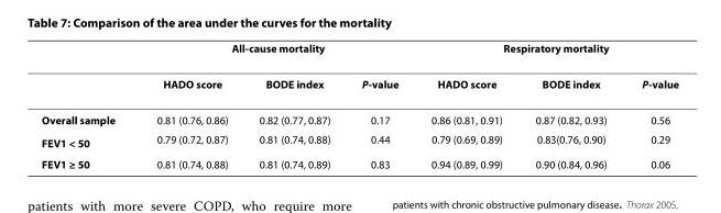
<table><thead><tr><td rowspan="2"></td><td colspan="3">All-cause mortality</td><td colspan="3">Respiratory mortality</td></tr><tr><td>HADO score</td><td>BODE index</td><td>P-value</td><td>HADO score</td><td>BODE index</td><td>P-value</td></tr></thead><tbody><tr><td>Overall sample</td><td>0.81 (0.76, 0.86)</td><td>0.82 (0.77, 0.87)</td><td>0.17</td><td>0.86 (0.81, 0.91)</td><td>0.87 (0.82, 0.93)</td><td>0.56</td></tr><tr><td>FEV<sub>1</sub> &lt; 50</td><td>0.79 (0.72, 0.87)</td><td>0.81 (0.74, 0.88)</td><td>0.44</td><td>0.79 (0.69, 0.89)</td><td>0.83(0.76, 0.90)</td><td>0.29</td></tr><tr><td>FEV1 ≥ 50</td><td>0.81 (0.74, 0.88)</td><td>0.81 (0.74, 0.89)</td><td>0.83</td><td>0.94 (0.89, 0.99)</td><td>0.90 (0.84, 0.96)</td><td>0.06</td></tr></tbody></table>